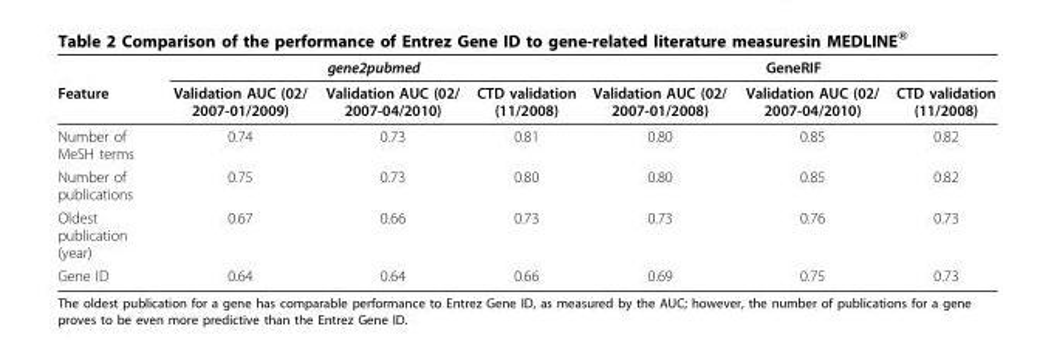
<table><thead><tr><td rowspan="2">Feature</td><td colspan="3">gene2pubmed</td><td colspan="3">GeneRIF</td></tr><tr><td>Validation AUC (02/ 2007-01/2009)</td><td>Validation AUC (02/ 2007-04/2010)</td><td>CTD validation (11/2008)</td><td>Validation AUC (02/ 2007-01/2008)</td><td>Validation AUC (02/ 2007-04/2010)</td><td>CTD validation (11/2008)</td></tr></thead><tbody><tr><td>Number of MeSH terms</td><td>0.74</td><td>0.73</td><td>0.81</td><td>0.80</td><td>0.85</td><td>0.82</td></tr><tr><td>Number of publications</td><td>0.75</td><td>0.73</td><td>0.80</td><td>0.80</td><td>0.85</td><td>0.82</td></tr><tr><td>Oldest publication (year)</td><td>0.67</td><td>0.66</td><td>0.73</td><td>0.73</td><td>0.76</td><td>0.73</td></tr><tr><td>Gene ID</td><td>0.64</td><td>0.64</td><td>0.66</td><td>0.69</td><td>0.75</td><td>0.73</td></tr></tbody></table>